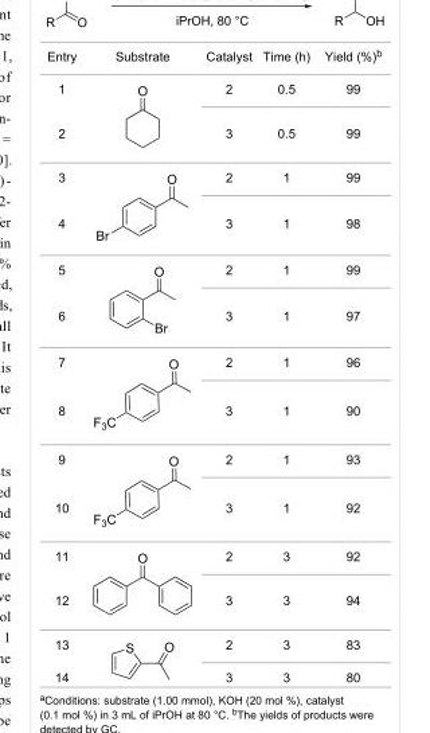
<table><tbody><tr><td>Entry</td><td>Substrate</td><td>Catalyst</td><td>Time (h)</td><td>Yield (%)b</td></tr><tr><td>1</td><td rowspan="2"></td><td>2</td><td>0.5</td><td>99</td></tr><tr><td>2</td><td>3</td><td>0.5</td><td>99</td></tr><tr><td>3</td><td rowspan="2"></td><td>2</td><td>1</td><td>99</td></tr><tr><td>4</td><td>3</td><td>1</td><td>98</td></tr><tr><td>5</td><td rowspan="2"></td><td>2</td><td>1</td><td>99</td></tr><tr><td>6</td><td>3</td><td>1</td><td>97</td></tr><tr><td>7</td><td rowspan="2"></td><td>2</td><td>1</td><td>96</td></tr><tr><td>8</td><td>3</td><td>1</td><td>90</td></tr><tr><td>9</td><td rowspan="2"></td><td>2</td><td>1</td><td>93</td></tr><tr><td>10</td><td>3</td><td>1</td><td>92</td></tr><tr><td>11</td><td rowspan="2"></td><td>2</td><td>3</td><td>92</td></tr><tr><td>12</td><td>3</td><td>3</td><td>94</td></tr><tr><td>13</td><td rowspan="2"></td><td>2</td><td>3</td><td>83</td></tr><tr><td>14</td><td>3</td><td>3</td><td>80</td></tr></tbody></table>